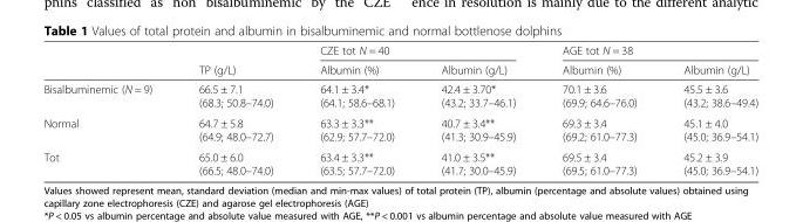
<table><thead><tr><td rowspan="2"></td><td rowspan="2">TP (g/L)</td><td colspan="2">CZE tot N = 40</td><td colspan="2">AGE tot N = 38</td></tr><tr><td>Albumin (%)</td><td>Albumin (g/L)</td><td>Albumin (%)</td><td>Albumin (g/L)</td></tr></thead><tbody><tr><td>Bisalbuminemic (N = 9)</td><td>66.5 ± 7.1 (68.3; 50.8–74.0)</td><td>64.1 ± 3.4* (64.1; 58.6–68.1)</td><td>42.4 ± 3.70* (43.2; 33.7–46.1)</td><td>70.1 ± 3.6 (69.9; 64.6–76.0)</td><td>45.5 ± 3.6 (43.2; 38.6–49.4)</td></tr><tr><td>Normal</td><td>64.7 ± 5.8 (64.9; 48.0–72.7)</td><td>63.3 ± 3.3** (62.9; 57.7–72.0)</td><td>40.7 ± 3.4** (41.3; 30.9–45.9)</td><td>69.3 ± 3.4 (69.2; 61.0–77.3)</td><td>45.1 ± 4.0 (45.0; 36.9–54.1)</td></tr><tr><td>Tot</td><td>65.0 ± 6.0 (66.5; 48.0–74.0)</td><td>63.4 ± 3.3** (63.5; 57.7–72.0)</td><td>41.0 ± 3.5** (41.7; 30.0–45.9)</td><td>69.5 ± 3.4 (69.5; 61.0–77.3)</td><td>45.2 ± 3.9 (45.0; 36.9–54.1)</td></tr></tbody></table>